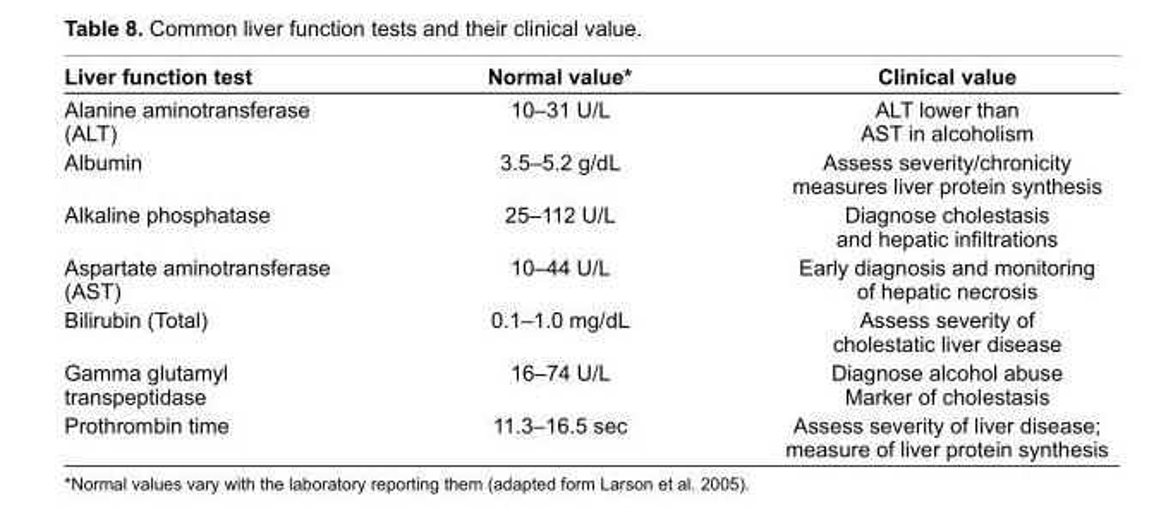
<table><thead><tr><td>Liver function test</td><td>Normal value*</td><td>Clinical value</td></tr></thead><tbody><tr><td>Alanine aminotransferase (ALT)</td><td>10–31 U/L</td><td>ALT lower than AST in alcoholism</td></tr><tr><td>Albumin</td><td>3.5–5.2 g/dL</td><td>Assess severity/chronicity measures liver protein synthesis</td></tr><tr><td>Alkaline phosphatase</td><td>25–112 U/L</td><td>Diagnose cholestasis and hepatic infi ltrations</td></tr><tr><td>Aspartate aminotransferase (AST)</td><td>10–44 U/L</td><td>Early diagnosis and monitoring of hepatic necrosis</td></tr><tr><td>Bilirubin (Total)</td><td>0.1–1.0 mg/dL</td><td>Assess severity of cholestatic liver disease</td></tr><tr><td>Gamma glutamyl transpeptidase</td><td>16–74 U/L</td><td>Diagnose alcohol abuse Marker of cholestasis</td></tr><tr><td>Prothrombin time</td><td>11.3–16.5 sec</td><td>Assess severity of liver disease; measure of liver protein synthesis</td></tr></tbody></table>